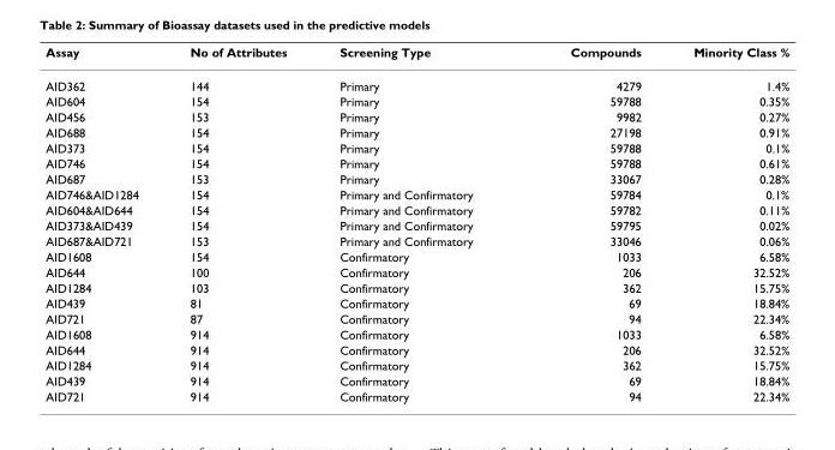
<table><thead><tr><td>Assay</td><td>No of Attributes</td><td>Screening Type</td><td>Compounds</td><td>Minority Class %</td></tr></thead><tbody><tr><td>AID362</td><td>144</td><td>Primary</td><td>4279</td><td>1.4%</td></tr><tr><td>AID604</td><td>154</td><td>Primary</td><td>59788</td><td>0.35%</td></tr><tr><td>AID456</td><td>153</td><td>Primary</td><td>9982</td><td>0.27%</td></tr><tr><td>AID688</td><td>154</td><td>Primary</td><td>27198</td><td>0.91%</td></tr><tr><td>AID373</td><td>154</td><td>Primary</td><td>59788</td><td>0.1%</td></tr><tr><td>AID746</td><td>154</td><td>Primary</td><td>59788</td><td>0.61%</td></tr><tr><td>AID687</td><td>153</td><td>Primary</td><td>33067</td><td>0.28%</td></tr><tr><td>AID746&amp;AID1284</td><td>154</td><td>Primary and Confirmatory</td><td>59784</td><td>0.1%</td></tr><tr><td>AID604&amp;AID644</td><td>154</td><td>Primary and Confirmatory</td><td>59782</td><td>0.11%</td></tr><tr><td>AID373&amp;AID439</td><td>154</td><td>Primary and Confirmatory</td><td>59795</td><td>0.02%</td></tr><tr><td>AID687&amp;AID721</td><td>153</td><td>Primary and Confirmatory</td><td>33046</td><td>0.06%</td></tr><tr><td>AID1608</td><td>154</td><td>Confirmatory</td><td>1033</td><td>6.58%</td></tr><tr><td>AID644</td><td>100</td><td>Confirmatory</td><td>206</td><td>32.52%</td></tr><tr><td>AID1284</td><td>103</td><td>Confirmatory</td><td>362</td><td>15.75%</td></tr><tr><td>AID439</td><td>81</td><td>Confirmatory</td><td>69</td><td>18.84%</td></tr><tr><td>AID721</td><td>87</td><td>Confirmatory</td><td>94</td><td>22.34%</td></tr><tr><td>AID1608</td><td>914</td><td>Confirmatory</td><td>1033</td><td>6.58%</td></tr><tr><td>AID644</td><td>914</td><td>Confirmatory</td><td>206</td><td>32.52%</td></tr><tr><td>AID1284</td><td>914</td><td>Confirmatory</td><td>362</td><td>15.75%</td></tr><tr><td>AID439</td><td>914</td><td>Confirmatory</td><td>69</td><td>18.84%</td></tr><tr><td>AID721</td><td>914</td><td>Confirmatory</td><td>94</td><td>22.34%</td></tr></tbody></table>